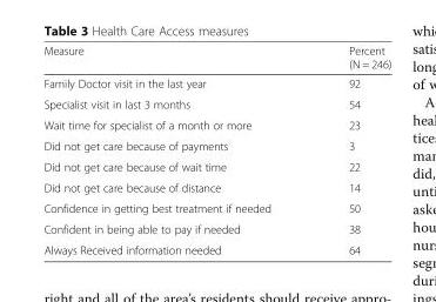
<table><thead><tr><td>Measure</td><td>Percent (N = 246)</td></tr></thead><tbody><tr><td>Family Doctor visit in the last year</td><td>92</td></tr><tr><td>Specialist visit in last 3 months</td><td>54</td></tr><tr><td>Wait time for specialist of a month or more</td><td>23</td></tr><tr><td>Did not get care because of payments</td><td>3</td></tr><tr><td>Did not get care because of wait time</td><td>22</td></tr><tr><td>Did not get care because of distance</td><td>14</td></tr><tr><td>Confidence in getting best treatment if needed</td><td>50</td></tr><tr><td>Confident in being able to pay if needed</td><td>38</td></tr><tr><td>Always Received information needed</td><td>64</td></tr></tbody></table>